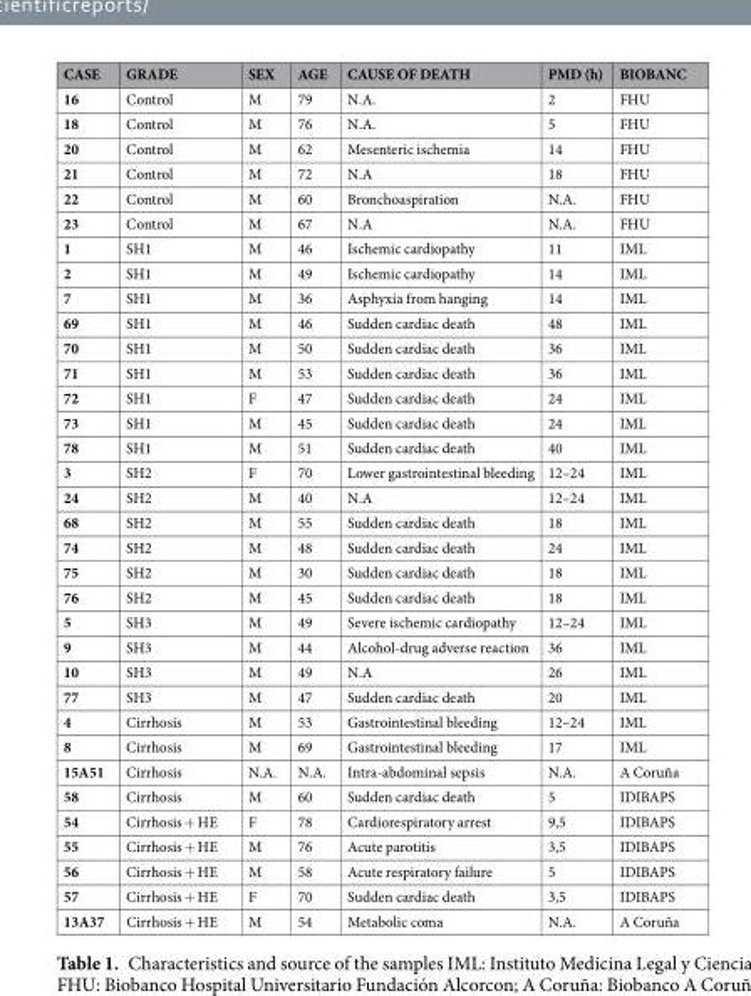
<table><thead><tr><td>CASE</td><td>GRADE</td><td>SEX</td><td>AGE</td><td>CAUSE OF DEATH</td><td>PMD (h)</td><td>BIOBANC</td></tr></thead><tbody><tr><td>16</td><td>Control</td><td>M</td><td>79</td><td>N.A.</td><td>2</td><td>FHU</td></tr><tr><td>18</td><td>Control</td><td>M</td><td>76</td><td>N.A.</td><td>5</td><td>FHU</td></tr><tr><td>20</td><td>Control</td><td>M</td><td>62</td><td>Mesenteric ischemia</td><td>14</td><td>FHU</td></tr><tr><td>21</td><td>Control</td><td>M</td><td>72</td><td>N.A</td><td>18</td><td>FHU</td></tr><tr><td>22</td><td>Control</td><td>M</td><td>60</td><td>Bronchoaspiration</td><td>N.A.</td><td>FHU</td></tr><tr><td>23</td><td>Control</td><td>M</td><td>67</td><td>N.A</td><td>N.A.</td><td>FHU</td></tr><tr><td>1</td><td>SH1</td><td>M</td><td>46</td><td>Ischemic cardiopathy</td><td>11</td><td>IML</td></tr><tr><td>2</td><td>SH1</td><td>M</td><td>49</td><td>Ischemic cardiopathy</td><td>14</td><td>IML</td></tr><tr><td>7</td><td>SH1</td><td>M</td><td>36</td><td>Asphyxia from hanging</td><td>14</td><td>IML</td></tr><tr><td>69</td><td>SH1</td><td>M</td><td>46</td><td>Sudden cardiac death</td><td>48</td><td>IML</td></tr><tr><td>70</td><td>SH1</td><td>M</td><td>50</td><td>Sudden cardiac death</td><td>36</td><td>IML</td></tr><tr><td>71</td><td>SH1</td><td>M</td><td>53</td><td>Sudden cardiac death</td><td>36</td><td>IML</td></tr><tr><td>72</td><td>SH1</td><td>F</td><td>47</td><td>Sudden cardiac death</td><td>24</td><td>IML</td></tr><tr><td>73</td><td>SH1</td><td>M</td><td>45</td><td>Sudden cardiac death</td><td>24</td><td>IML</td></tr><tr><td>78</td><td>SH1</td><td>M</td><td>51</td><td>Sudden cardiac death</td><td>40</td><td>IML</td></tr><tr><td>3</td><td>SH2</td><td>F</td><td>70</td><td>Lower gastrointestinal bleeding</td><td>12–24</td><td>IML</td></tr><tr><td>24</td><td>SH2</td><td>M</td><td>40</td><td>N.A</td><td>12–24</td><td>IML</td></tr><tr><td>68</td><td>SH2</td><td>M</td><td>55</td><td>Sudden cardiac death</td><td>18</td><td>IML</td></tr><tr><td>74</td><td>SH2</td><td>M</td><td>48</td><td>Sudden cardiac death</td><td>24</td><td>IML</td></tr><tr><td>75</td><td>SH2</td><td>M</td><td>30</td><td>Sudden cardiac death</td><td>18</td><td>IML</td></tr><tr><td>76</td><td>SH2</td><td>M</td><td>45</td><td>Sudden cardiac death</td><td>18</td><td>IML</td></tr><tr><td>5</td><td>SH3</td><td>M</td><td>49</td><td>Severe ischemic cardiopathy</td><td>12–24</td><td>IML</td></tr><tr><td>9</td><td>SH3</td><td>M</td><td>44</td><td>Alcohol-drug adverse reaction</td><td>36</td><td>IML</td></tr><tr><td>10</td><td>SH3</td><td>M</td><td>49</td><td>N.A</td><td>26</td><td>IML</td></tr><tr><td>77</td><td>SH3</td><td>M</td><td>47</td><td>Sudden cardiac death</td><td>20</td><td>IML</td></tr><tr><td>4</td><td>Cirrhosis</td><td>M</td><td>53</td><td>Gastrointestinal bleeding</td><td>12–24</td><td>IML</td></tr><tr><td>8</td><td>Cirrhosis</td><td>M</td><td>69</td><td>Gastrointestinal bleeding</td><td>17</td><td>IML</td></tr><tr><td>15A51</td><td>Cirrhosis</td><td>N.A.</td><td>N.A.</td><td>Intra-abdominal sepsis</td><td>N.A.</td><td>A Coruña</td></tr><tr><td>58</td><td>Cirrhosis</td><td>M</td><td>60</td><td>Sudden cardiac death</td><td>5</td><td>IDIBAPS</td></tr><tr><td>54</td><td>Cirrhosis + HE</td><td>F</td><td>78</td><td>Cardiorespiratory arrest</td><td>9,5</td><td>IDIBAPS</td></tr><tr><td>55</td><td>Cirrhosis + HE</td><td>M</td><td>76</td><td>Acute parotitis</td><td>3,5</td><td>IDIBAPS</td></tr><tr><td>56</td><td>Cirrhosis + HE</td><td>M</td><td>58</td><td>Acute respiratory failure</td><td>5</td><td>IDIBAPS</td></tr><tr><td>57</td><td>Cirrhosis + HE</td><td>F</td><td>70</td><td>Sudden cardiac death</td><td>3,5</td><td>IDIBAPS</td></tr><tr><td>13A37</td><td>Cirrhosis + HE</td><td>M</td><td>54</td><td>Metabolic coma</td><td>N.A.</td><td>A Coruña</td></tr></tbody></table>